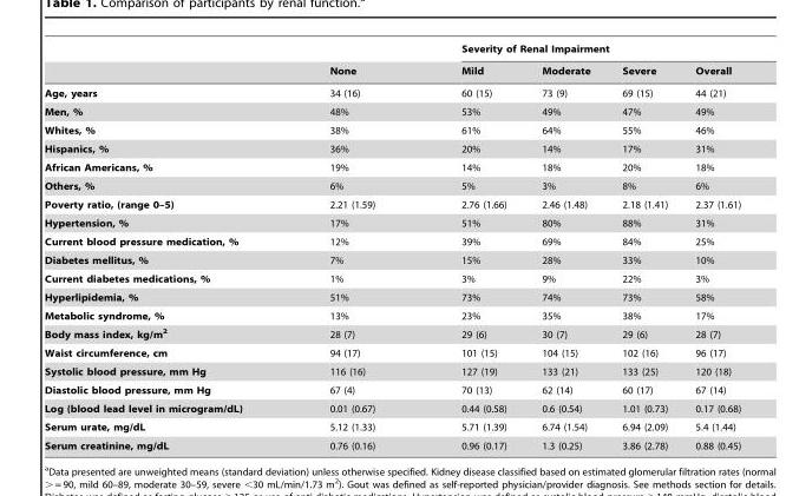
<table><thead><tr><td rowspan="2"></td><td rowspan="2">None</td><td colspan="4">Severity of Renal Impairment</td></tr><tr><td>Mild</td><td>Moderate</td><td>Severe</td><td>Overall</td></tr></thead><tbody><tr><td>Age, years</td><td>34 (16)</td><td>60 (15)</td><td>73 (9)</td><td>69 (15)</td><td>44 (21)</td></tr><tr><td>Men, %</td><td>48%</td><td>53%</td><td>49%</td><td>47%</td><td>49%</td></tr><tr><td>Whites, %</td><td>38%</td><td>61%</td><td>64%</td><td>55%</td><td>46%</td></tr><tr><td>Hispanics, %</td><td>36%</td><td>20%</td><td>14%</td><td>17%</td><td>31%</td></tr><tr><td>African Americans, %</td><td>19%</td><td>14%</td><td>18%</td><td>20%</td><td>18%</td></tr><tr><td>Others, %</td><td>6%</td><td>5%</td><td>3%</td><td>8%</td><td>6%</td></tr><tr><td>Poverty ratio, (range 0–5)</td><td>2.21 (1.59)</td><td>2.76 (1.66)</td><td>2.46 (1.48)</td><td>2.18 (1.41)</td><td>2.37 (1.61)</td></tr><tr><td>Hypertension, %</td><td>17%</td><td>51%</td><td>80%</td><td>88%</td><td>31%</td></tr><tr><td>Current blood pressure medication, %</td><td>12%</td><td>39%</td><td>69%</td><td>84%</td><td>25%</td></tr><tr><td>Diabetes mellitus, %</td><td>7%</td><td>15%</td><td>28%</td><td>33%</td><td>10%</td></tr><tr><td>Current diabetes medications, %</td><td>1%</td><td>3%</td><td>9%</td><td>22%</td><td>3%</td></tr><tr><td>Hyperlipidemia, %</td><td>51%</td><td>73%</td><td>74%</td><td>73%</td><td>58%</td></tr><tr><td>Metabolic syndrome, %</td><td>13%</td><td>23%</td><td>35%</td><td>38%</td><td>17%</td></tr><tr><td>Body mass index, kg/m<sup>2</sup></td><td>28 (7)</td><td>29 (6)</td><td>30 (7)</td><td>29 (6)</td><td>28 (7)</td></tr><tr><td>Waist circumference, cm</td><td>94 (17)</td><td>101 (15)</td><td>104 (15)</td><td>102 (16)</td><td>96 (17)</td></tr><tr><td>Systolic blood pressure, mm Hg</td><td>116 (16)</td><td>127 (19)</td><td>133 (21)</td><td>133 (25)</td><td>120 (18)</td></tr><tr><td>Diastolic blood pressure, mm Hg</td><td>67 (4)</td><td>70 (13)</td><td>62 (14)</td><td>60 (17)</td><td>67 (14)</td></tr><tr><td>Log (blood lead level in microgram/dL)</td><td>0.01 (0.67)</td><td>0.44 (0.58)</td><td>0.6 (0.54)</td><td>1.01 (0.73)</td><td>0.17 (0.68)</td></tr><tr><td>Serum urate, mg/dL</td><td>5.12 (1.33)</td><td>5.71 (1.39)</td><td>6.74 (1.54)</td><td>6.94 (2.09)</td><td>5.4 (1.44)</td></tr><tr><td>Serum creatinine, mg/dL</td><td>0.76 (0.16)</td><td>0.96 (0.17)</td><td>1.3 (0.25)</td><td>3.86 (2.78)</td><td>0.88 (0.45)</td></tr></tbody></table>